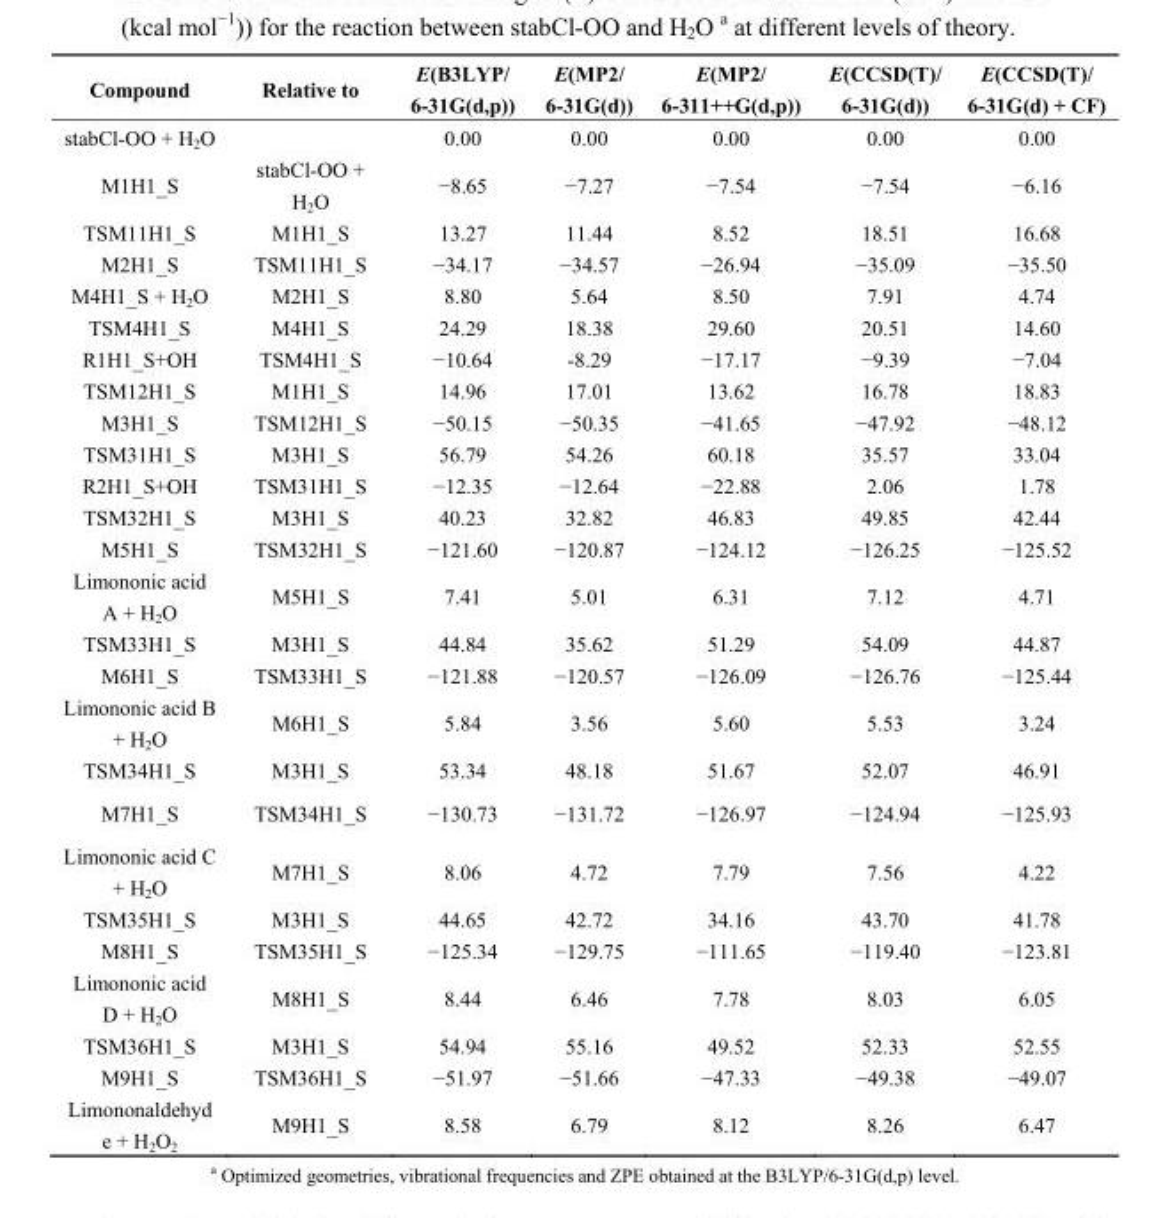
<table><thead><tr><td>Compound</td><td>Relative to</td><td>E(B3LYP/ 6-31G(d,p))</td><td>E(MP2/ 6-31G(d))</td><td>E(MP2/ 6-311++G(d,p))</td><td>E(CCSD(T)/ 6-31G(d))</td><td>E(CCSD(T)/ 6-31G(d) + CF)</td></tr></thead><tbody><tr><td>stabCl-OO + H<sub>2</sub>O</td><td></td><td>0.00</td><td>0.00</td><td>0.00</td><td>0.00</td><td>0.00</td></tr><tr><td>M1H1_S</td><td>stabCl-OO + H<sub>2</sub>O</td><td>−8.65</td><td>−7.27</td><td>−7.54</td><td>−7.54</td><td>−6.16</td></tr><tr><td>TSM11H1_S</td><td>M1H1_S</td><td>13.27</td><td>11.44</td><td>8.52</td><td>18.51</td><td>16.68</td></tr><tr><td>M2H1_S</td><td>TSM11H1_S</td><td>−34.17</td><td>−34.57</td><td>−26.94</td><td>−35.09</td><td>−35.50</td></tr><tr><td>M4H1_S + H<sub>2</sub>O</td><td>M2H1_S</td><td>8.80</td><td>5.64</td><td>8.50</td><td>7.91</td><td>4.74</td></tr><tr><td>TSM4H1_S</td><td>M4H1_S</td><td>24.29</td><td>18.38</td><td>29.60</td><td>20.51</td><td>14.60</td></tr><tr><td>R1H1_S+OH</td><td>TSM4H1_S</td><td>−10.64</td><td>-8.29</td><td>−17.17</td><td>−9.39</td><td>−7.04</td></tr><tr><td>TSM12H1_S</td><td>M1H1_S</td><td>14.96</td><td>17.01</td><td>13.62</td><td>16.78</td><td>18.83</td></tr><tr><td>M3H1_S</td><td>TSM12H1_S</td><td>−50.15</td><td>−50.35</td><td>−41.65</td><td>−47.92</td><td>−48.12</td></tr><tr><td>TSM31H1_S</td><td>M3H1_S</td><td>56.79</td><td>54.26</td><td>60.18</td><td>35.57</td><td>33.04</td></tr><tr><td>R2H1_S+OH</td><td>TSM31H1_S</td><td>−12.35</td><td>−12.64</td><td>−22.88</td><td>2.06</td><td>1.78</td></tr><tr><td>TSM32H1_S</td><td>M3H1_S</td><td>40.23</td><td>32.82</td><td>46.83</td><td>49.85</td><td>42.44</td></tr><tr><td>M5H1_S</td><td>TSM32H1_S</td><td>−121.60</td><td>−120.87</td><td>−124.12</td><td>−126.25</td><td>−125.52</td></tr><tr><td>Limononic acid A + H<sub>2</sub>O</td><td>M5H1_S</td><td>7.41</td><td>5.01</td><td>6.31</td><td>7.12</td><td>4.71</td></tr><tr><td>TSM33H1_S</td><td>M3H1_S</td><td>44.84</td><td>35.62</td><td>51.29</td><td>54.09</td><td>44.87</td></tr><tr><td>M6H1_S</td><td>TSM33H1_S</td><td>−121.88</td><td>−120.57</td><td>−126.09</td><td>−126.76</td><td>−125.44</td></tr><tr><td>Limononic acid B + H<sub>2</sub>O</td><td>M6H1_S</td><td>5.84</td><td>3.56</td><td>5.60</td><td>5.53</td><td>3.24</td></tr><tr><td>TSM34H1_S</td><td>M3H1_S</td><td>53.34</td><td>48.18</td><td>51.67</td><td>52.07</td><td>46.91</td></tr><tr><td>M7H1_S</td><td>TSM34H1_S</td><td>−130.73</td><td>−131.72</td><td>−126.97</td><td>−124.94</td><td>−125.93</td></tr><tr><td>Limononic acid C + H<sub>2</sub>O</td><td>M7H1_S</td><td>8.06</td><td>4.72</td><td>7.79</td><td>7.56</td><td>4.22</td></tr><tr><td>TSM35H1_S</td><td>M3H1_S</td><td>44.65</td><td>42.72</td><td>34.16</td><td>43.70</td><td>41.78</td></tr><tr><td>M8H1_S</td><td>TSM35H1_S</td><td>−125.34</td><td>−129.75</td><td>−111.65</td><td>−119.40</td><td>−123.81</td></tr><tr><td>Limononic acid D + H<sub>2</sub>O</td><td>M8H1_S</td><td>8.44</td><td>6.46</td><td>7.78</td><td>8.03</td><td>6.05</td></tr><tr><td>TSM36H1_S</td><td>M3H1_S</td><td>54.94</td><td>55.16</td><td>49.52</td><td>52.33</td><td>52.55</td></tr><tr><td>M9H1_S</td><td>TSM36H1_S</td><td>−51.97</td><td>−51.66</td><td>−47.33</td><td>−49.38</td><td>−49.07</td></tr><tr><td>Limononaldehyd e + H<sub>2</sub>O<sub>2</sub></td><td>M9H1_S</td><td>8.58</td><td>6.79</td><td>8.12</td><td>8.26</td><td>6.47</td></tr></tbody></table>